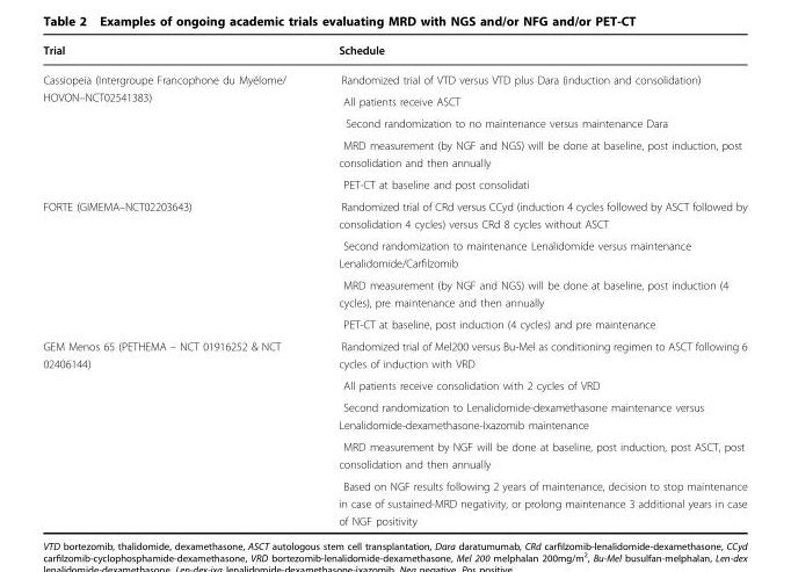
<table><thead><tr><td>Trial</td><td>Schedule</td></tr></thead><tbody><tr><td rowspan="5">Cassiopeia (Intergroupe Francophone du Myélome/ HOVON–NCT02541383)</td><td>Randomized trial of VTD versus VTD plus Dara (induction and consolidation)</td></tr><tr><td>All patients receive ASCT</td></tr><tr><td>Second randomization to no maintenance versus maintenance Dara</td></tr><tr><td>MRD measurement (by NGF and NGS) will be done at baseline, post induction, post consolidation and then annually</td></tr><tr><td>PET-CT at baseline and post consolidati</td></tr><tr><td rowspan="4">FORTE (GIMEMA–NCT02203643)</td><td>Randomized trial of CRd versus CCyd (induction 4 cycles followed by ASCT followed by consolidation 4 cycles) versus CRd 8 cycles without ASCT</td></tr><tr><td>Second randomization to maintenance Lenalidomide versus maintenance Lenalidomide/Carfilzomib</td></tr><tr><td>MRD measurement (by NGF and NGS) will be done at baseline, post induction (4 cycles), pre maintenance and then annually</td></tr><tr><td>PET-CT at baseline, post induction (4 cycles) and pre maintenance</td></tr><tr><td rowspan="5">GEM Menos 65 (PETHEMA – NCT 01916252 &amp; NCT 02406144)</td><td>Randomized trial of Mel200 versus Bu-Mel as conditioning regimen to ASCT following 6 cycles of induction with VRD</td></tr><tr><td>All patients receive consolidation with 2 cycles of VRD</td></tr><tr><td>Second randomization to Lenalidomide-dexamethasone maintenance versus Lenalidomide-dexamethasone-Ixazomib maintenance</td></tr><tr><td>MRD measurement by NGF will be done at baseline, post induction, post ASCT, post consolidation and then annually</td></tr><tr><td>Based on NGF results following 2 years of maintenance, decision to stop maintenance in case of sustained-MRD negativity, or prolong maintenance 3 additional years in case of NGF positivity</td></tr></tbody></table>